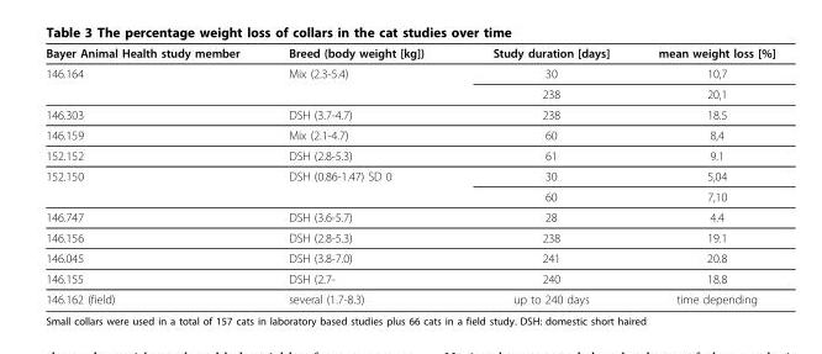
<table><thead><tr><td>Bayer Animal Health study member</td><td>Breed (body weight [kg])</td><td>Study duration [days]</td><td>mean weight loss [%]</td></tr></thead><tbody><tr><td rowspan="2">146.164</td><td>Mix (2.3-5.4)</td><td>30</td><td>10,7</td></tr><tr><td></td><td>238</td><td>20,1</td></tr><tr><td>146.303</td><td>DSH (3.7-4.7)</td><td>238</td><td>18.5</td></tr><tr><td>146.159</td><td>Mix (2.1-4.7)</td><td>60</td><td>8,4</td></tr><tr><td>152.152</td><td>DSH (2.8-5.3)</td><td>61</td><td>9.1</td></tr><tr><td rowspan="2">152.150</td><td>DSH (0.86-1.47) SD 0</td><td>30</td><td>5,04</td></tr><tr><td></td><td>60</td><td>7,10</td></tr><tr><td>146.747</td><td>DSH (3.6-5.7)</td><td>28</td><td>4.4</td></tr><tr><td>146.156</td><td>DSH (2.8-5.3)</td><td>238</td><td>19.1</td></tr><tr><td>146.045</td><td>DSH (3.8-7.0)</td><td>241</td><td>20.8</td></tr><tr><td>146.155</td><td>DSH (2.7-</td><td>240</td><td>18.8</td></tr><tr><td>146.162 (field)</td><td>several (1.7-8.3)</td><td>up to 240 days</td><td>time depending</td></tr></tbody></table>